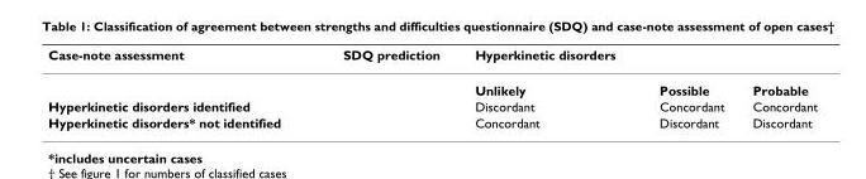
<table><thead><tr><td>Case-note assessment</td><td>SDQ prediction</td><td>Hyperkinetic disorders</td><td></td><td></td></tr></thead><tbody><tr><td></td><td></td><td>Unlikely</td><td>Possible</td><td>Probable</td></tr><tr><td>Hyperkinetic disorders identified</td><td></td><td>Discordant</td><td>Concordant</td><td>Concordant</td></tr><tr><td>Hyperkinetic disorders* not identified</td><td></td><td>Concordant</td><td>Discordant</td><td>Discordant</td></tr></tbody></table>